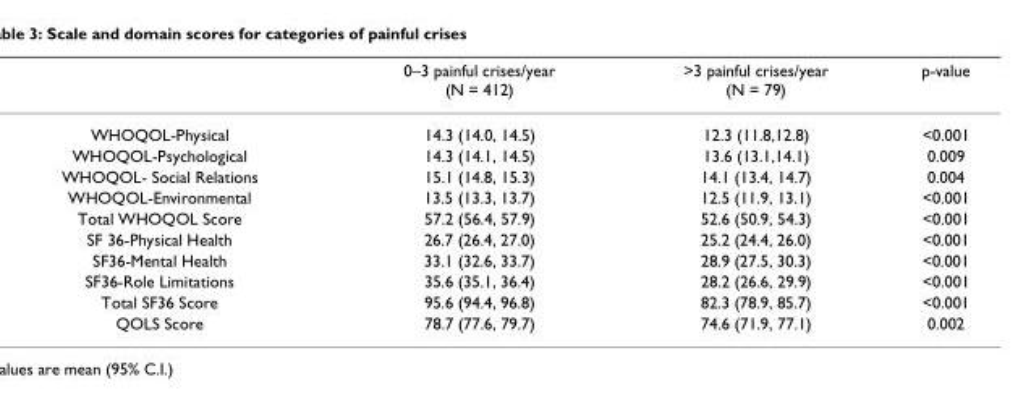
<table><thead><tr><td></td><td>0–3 painful crises/year (N = 412)</td><td>&gt;3 painful crises/year (N = 79)</td><td>p-value</td></tr></thead><tbody><tr><td>WHOQOL-Physical</td><td>14.3 (14.0, 14.5)</td><td>12.3 (11.8,12.8)</td><td>&lt;0.001</td></tr><tr><td>WHOQOL-Psychological</td><td>14.3 (14.1, 14.5)</td><td>13.6 (13.1,14.1)</td><td>0.009</td></tr><tr><td>WHOQOL- Social Relations</td><td>15.1 (14.8, 15.3)</td><td>14.1 (13.4, 14.7)</td><td>0.004</td></tr><tr><td>WHOQOL-Environmental</td><td>13.5 (13.3, 13.7)</td><td>12.5 (11.9, 13.1)</td><td>&lt;0.001</td></tr><tr><td>Total WHOQOL Score</td><td>57.2 (56.4, 57.9)</td><td>52.6 (50.9, 54.3)</td><td>&lt;0.001</td></tr><tr><td>SF 36-Physical Health</td><td>26.7 (26.4, 27.0)</td><td>25.2 (24.4, 26.0)</td><td>&lt;0.001</td></tr><tr><td>SF36-Mental Health</td><td>33.1 (32.6, 33.7)</td><td>28.9 (27.5, 30.3)</td><td>&lt;0.001</td></tr><tr><td>SF36-Role Limitations</td><td>35.6 (35.1, 36.4)</td><td>28.2 (26.6, 29.9)</td><td>&lt;0.001</td></tr><tr><td>Total SF36 Score</td><td>95.6 (94.4, 96.8)</td><td>82.3 (78.9, 85.7)</td><td>&lt;0.001</td></tr><tr><td>QOLS Score</td><td>78.7 (77.6, 79.7)</td><td>74.6 (71.9, 77.1)</td><td>0.002</td></tr></tbody></table>